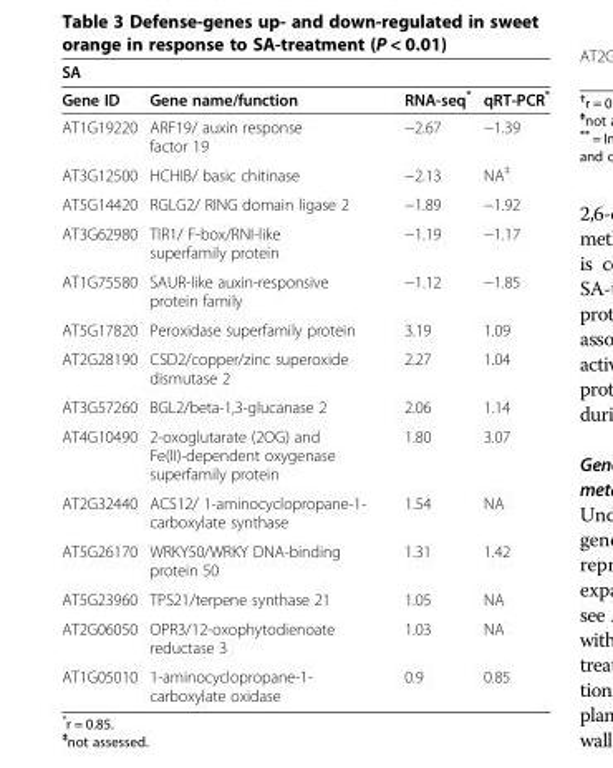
<table><thead><tr><td colspan="4">SA</td></tr><tr><td>Gene ID</td><td>Gene name/function</td><td>RNA-seq*</td><td>qRT-PCR*</td></tr></thead><tbody><tr><td>AT1G19220</td><td>ARF19/ auxin response factor 19</td><td>−2.67</td><td>−1.39</td></tr><tr><td>AT3G12500</td><td>HCHIB/ basic chitinase</td><td>−2.13</td><td>NA<sup>‡</sup></td></tr><tr><td>AT5G14420</td><td>RGLG2/ RING domain ligase 2</td><td>−1.89</td><td>−1.92</td></tr><tr><td>AT3G62980</td><td>TIR1/ F-box/RNI-like superfamily protein</td><td>−1.19</td><td>−1.17</td></tr><tr><td>AT1G75580</td><td>SAUR-like auxin-responsive protein family</td><td>−1.12</td><td>−1.85</td></tr><tr><td>AT5G17820</td><td>Peroxidase superfamily protein</td><td>3.19</td><td>1.09</td></tr><tr><td>AT2G28190</td><td>CSD2/copper/zinc superoxide dismutase 2</td><td>2.27</td><td>1.04</td></tr><tr><td>AT3G57260</td><td>BGL2/beta-1,3-glucanase 2</td><td>2.06</td><td>1.14</td></tr><tr><td>AT4G10490</td><td>2-oxoglutarate (2OG) and Fe(II)-dependent oxygenase superfamily protein</td><td>1.80</td><td>3.07</td></tr><tr><td>AT2G32440</td><td>ACS12/ 1-aminocyclopropane-1- carboxylate synthase</td><td>1.54</td><td>NA</td></tr><tr><td>AT5G26170</td><td>WRKY50/WRKY DNA-binding protein 50</td><td>1.31</td><td>1.42</td></tr><tr><td>AT5G23960</td><td>TPS21/terpene synthase 21</td><td>1.05</td><td>NA</td></tr><tr><td>AT2G06050</td><td>OPR3/12-oxophytodienoate reductase 3</td><td>1.03</td><td>NA</td></tr><tr><td>AT1G05010</td><td>1-aminocyclopropane-1- carboxylate oxidase</td><td>0.9</td><td>0.85</td></tr></tbody></table>